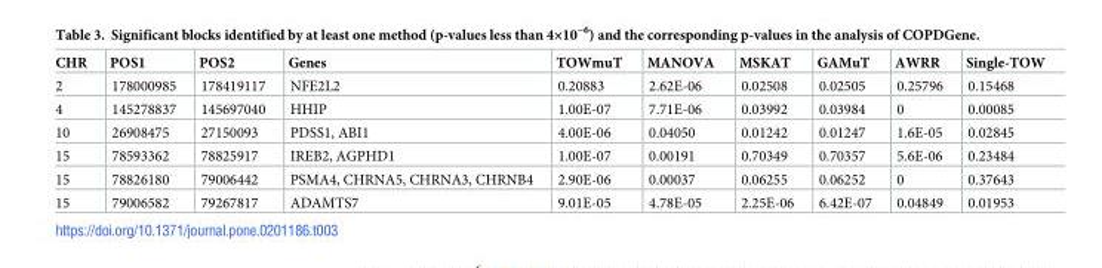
<table><thead><tr><td>CHR</td><td>POS1</td><td>POS2</td><td>Genes</td><td>TOWmuT</td><td>MANOVA</td><td>MSKAT</td><td>GAMuT</td><td>AWRR</td><td>Single-TOW</td></tr></thead><tbody><tr><td>2</td><td>178000985</td><td>178419117</td><td>NFE2L2</td><td>0.20883</td><td>2.62E-06</td><td>0.02508</td><td>0.02505</td><td>0.25796</td><td>0.15468</td></tr><tr><td>4</td><td>145278837</td><td>145697040</td><td>HHIP</td><td>1.00E-07</td><td>7.71E-06</td><td>0.03992</td><td>0.03984</td><td>0</td><td>0.00085</td></tr><tr><td>10</td><td>26908475</td><td>27150093</td><td>PDSS1, ABI1</td><td>4.00E-06</td><td>0.04050</td><td>0.01242</td><td>0.01247</td><td>1.6E-05</td><td>0.02845</td></tr><tr><td>15</td><td>78593362</td><td>78825917</td><td>IREB2, AGPHD1</td><td>1.00E-07</td><td>0.00191</td><td>0.70349</td><td>0.70357</td><td>5.6E-06</td><td>0.23484</td></tr><tr><td>15</td><td>78826180</td><td>79006442</td><td>PSMA4, CHRNA5, CHRNA3, CHRNB4</td><td>2.90E-06</td><td>0.00037</td><td>0.06255</td><td>0.06252</td><td>0</td><td>0.37643</td></tr><tr><td>15</td><td>79006582</td><td>79267817</td><td>ADAMTS7</td><td>9.01E-05</td><td>4.78E-05</td><td>2.25E-06</td><td>6.42E-07</td><td>0.04849</td><td>0.01953</td></tr></tbody></table>